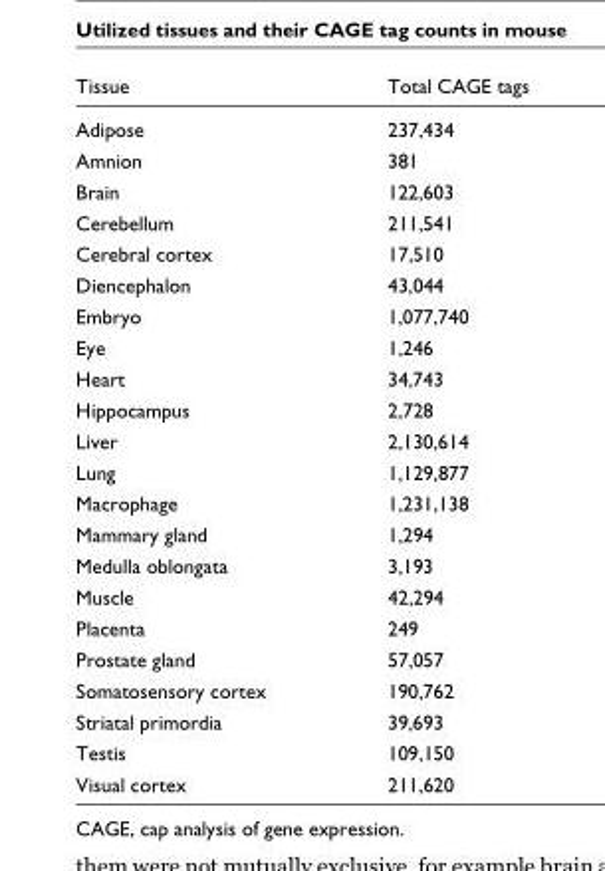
<table><thead><tr><td>Tissue</td><td>Total CAGE tags</td></tr></thead><tbody><tr><td>Adipose</td><td>237,434</td></tr><tr><td>Amnion</td><td>381</td></tr><tr><td>Brain</td><td>122,603</td></tr><tr><td>Cerebellum</td><td>211,541</td></tr><tr><td>Cerebral cortex</td><td>17,510</td></tr><tr><td>Diencephalon</td><td>43,044</td></tr><tr><td>Embryo</td><td>1,077,740</td></tr><tr><td>Eye</td><td>1,246</td></tr><tr><td>Heart</td><td>34,743</td></tr><tr><td>Hippocampus</td><td>2,728</td></tr><tr><td>Liver</td><td>2,130,614</td></tr><tr><td>Lung</td><td>1,129,877</td></tr><tr><td>Macrophage</td><td>1,231,138</td></tr><tr><td>Mammary gland</td><td>1,294</td></tr><tr><td>Medulla oblongata</td><td>3,193</td></tr><tr><td>Muscle</td><td>42,294</td></tr><tr><td>Placenta</td><td>249</td></tr><tr><td>Prostate gland</td><td>57,057</td></tr><tr><td>Somatosensory cortex</td><td>190,762</td></tr><tr><td>Striatal primordia</td><td>39,693</td></tr><tr><td>Testis</td><td>109,150</td></tr><tr><td>Visual cortex</td><td>211,620</td></tr></tbody></table>